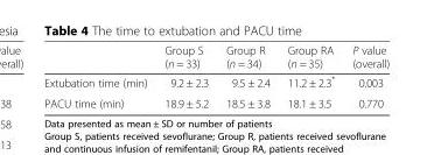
<table><thead><tr><td></td><td>Group S (n = 33)</td><td>Group R (n = 34)</td><td>Group RA (n = 35)</td><td>P value (overall)</td></tr></thead><tbody><tr><td>Extubation time (min)</td><td>9.2 ± 2.3</td><td>9.5 ± 2.4</td><td>11.2 ± 2.3*</td><td>0.003</td></tr><tr><td>PACU time (min)</td><td>18.9 ± 5.2</td><td>18.5 ± 3.8</td><td>18.1 ± 3.5</td><td>0.770</td></tr></tbody></table>